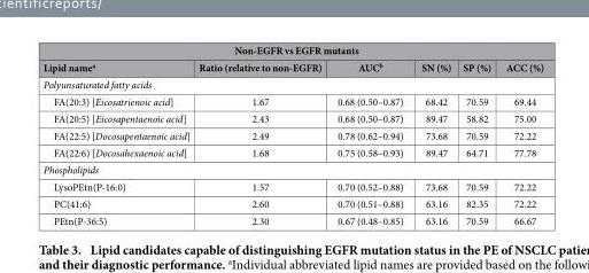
<table><thead><tr><td colspan="6">Non-EGFR vs EGFR mutants</td></tr><tr><td>Lipid name<sup>a</sup></td><td>Ratio (relative to non-EGFR)</td><td>AUC<sup>b</sup></td><td>SN (%)</td><td>SP (%)</td><td>ACC (%)</td></tr></thead><tbody><tr><td colspan="6">Polyunsaturated fatty acids</td></tr><tr><td>FA(20:3) [Eicosatrienoic acid]</td><td>1.67</td><td>0.68 (0.50–0.87)</td><td>68.42</td><td>70.59</td><td>69.44</td></tr><tr><td>FA(20:5) [Eicosapentaenoic acid]</td><td>2.43</td><td>0.68 (0.50–0.87)</td><td>89.47</td><td>58.82</td><td>75.00</td></tr><tr><td>FA(22:5) [Docosapentaenoic acid]</td><td>2.49</td><td>0.78 (0.62–0.94)</td><td>73.68</td><td>70.59</td><td>72.22</td></tr><tr><td>FA(22:6) [Docosahexaenoic acid]</td><td>1.68</td><td>0.75 (0.58–0.93)</td><td>89.47</td><td>64.71</td><td>77.78</td></tr><tr><td colspan="6">Phospholipids</td></tr><tr><td>LysoPEtn(P-16:0)</td><td>1.57</td><td>0.70 (0.52–0.88)</td><td>73.68</td><td>70.59</td><td>72.22</td></tr><tr><td>PC(41:6)</td><td>2.60</td><td>0.70 (0.51–0.88)</td><td>63.16</td><td>82.35</td><td>72.22</td></tr><tr><td>PEtn(P-36:5)</td><td>2.30</td><td>0.67 (0.48–0.85)</td><td>63.16</td><td>70.59</td><td>66.67</td></tr></tbody></table>